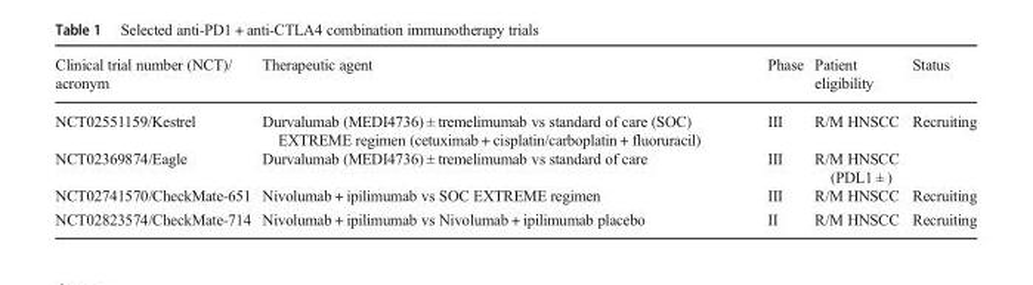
<table><thead><tr><td>Clinical trial number (NCT)/ acronym</td><td>Therapeutic agent</td><td>Phase</td><td>Patient eligibility</td><td>Status</td></tr></thead><tbody><tr><td>NCT02551159/Kestrel</td><td>Durvalumab (MEDI4736) ± tremelimumab vs standard of care (SOC) EXTREME regimen (cetuximab + cisplatin/carboplatin + fluoruracil)</td><td>III</td><td>R/M HNSCC</td><td>Recruiting</td></tr><tr><td>NCT02369874/Eagle</td><td>Durvalumab (MEDI4736) ± tremelimumab vs standard of care</td><td>III</td><td>R/M HNSCC (PDL1 ± )</td><td></td></tr><tr><td>NCT02741570/CheckMate-651</td><td>Nivolumab + ipilimumab vs SOC EXTREME regimen</td><td>III</td><td>R/M HNSCC</td><td>Recruiting</td></tr><tr><td>NCT02823574/CheckMate-714</td><td>Nivolumab + ipilimumab vs Nivolumab + ipilimumab placebo</td><td>II</td><td>R/M HNSCC</td><td>Recruiting</td></tr></tbody></table>